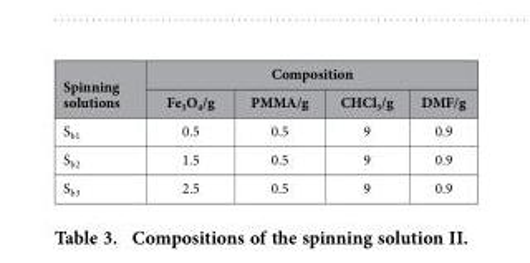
<table><thead><tr><td rowspan="2">Spinning solutions</td><td colspan="4">Composition</td></tr><tr><td>Fe<sub>3</sub>O<sub>4</sub>/g</td><td>PMMA/g</td><td>CHCl<sub>3</sub>/g</td><td>DMF/g</td></tr></thead><tbody><tr><td>S<sub>b1</sub></td><td>0.5</td><td>0.5</td><td>9</td><td>0.9</td></tr><tr><td>S<sub>b2</sub></td><td>1.5</td><td>0.5</td><td>9</td><td>0.9</td></tr><tr><td>S<sub>b3</sub></td><td>2.5</td><td>0.5</td><td>9</td><td>0.9</td></tr></tbody></table>